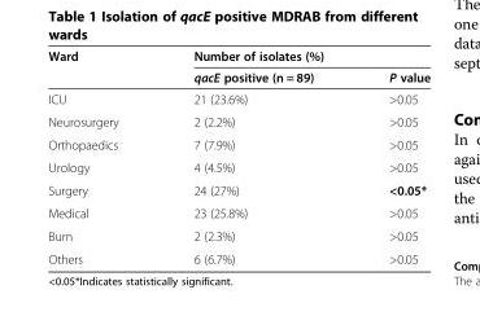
<table><thead><tr><td rowspan="2">Ward</td><td colspan="2">Number of isolates (%)</td></tr><tr><td>qacE positive (n = 89)</td><td>P value</td></tr></thead><tbody><tr><td>ICU</td><td>21 (23.6%)</td><td>&gt;0.05</td></tr><tr><td>Neurosurgery</td><td>2 (2.2%)</td><td>&gt;0.05</td></tr><tr><td>Orthopaedics</td><td>7 (7.9%)</td><td>&gt;0.05</td></tr><tr><td>Urology</td><td>4 (4.5%)</td><td>&gt;0.05</td></tr><tr><td>Surgery</td><td>24 (27%)</td><td>&lt;0.05*</td></tr><tr><td>Medical</td><td>23 (25.8%)</td><td>&gt;0.05</td></tr><tr><td>Burn</td><td>2 (2.3%)</td><td>&gt;0.05</td></tr><tr><td>Others</td><td>6 (6.7%)</td><td>&gt;0.05</td></tr></tbody></table>